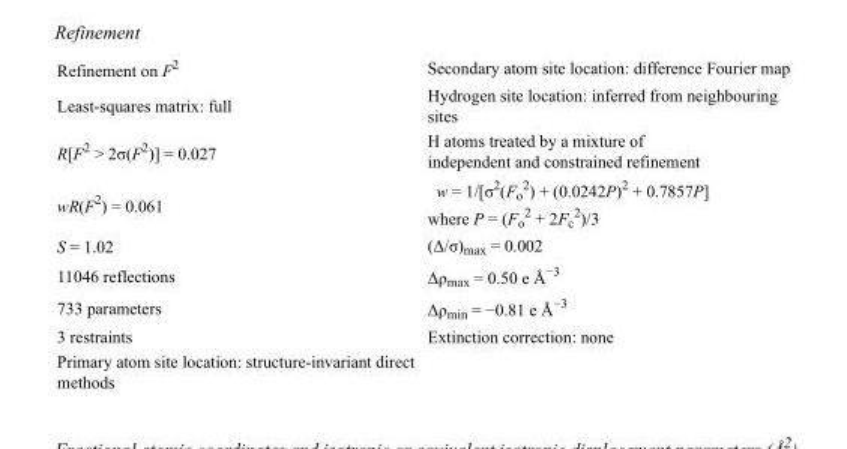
<table><tbody><tr><td>Refinement on F<sup>2</sup></td><td>Secondary atom site location: difference Fourier map</td></tr><tr><td>Least-squares matrix: full</td><td>Hydrogen site location: inferred from neighbouring sites</td></tr><tr><td>R[F<sup>2</sup> &gt; 2σ(F<sup>2</sup>)] = 0.027</td><td>H atoms treated by a mixture of independent and constrained refinement</td></tr><tr><td>wR(F<sup>2</sup>) = 0.061</td><td>w = 1/[σ<sup>2</sup>(F<sub>o</sub> <sup>2</sup>) + (0.0242P)<sup>2</sup> + 0.7857P] where P = (F<sub>o</sub> <sup>2</sup> + 2F<sub>c</sub> <sup>2</sup>)/3</td></tr><tr><td>S = 1.02</td><td>(Δ/σ)<sub>max</sub> = 0.002</td></tr><tr><td>11046 reflections</td><td>Δρ<sub>max</sub> = 0.50 e Å<sup>−3</sup></td></tr><tr><td>733 parameters</td><td>Δρ<sub>min</sub> = −0.81 e Å<sup>−3</sup></td></tr><tr><td>3 restraints</td><td>Extinction correction: none</td></tr><tr><td>Primary atom site location: structure-invariant direct methods</td><td></td></tr></tbody></table>